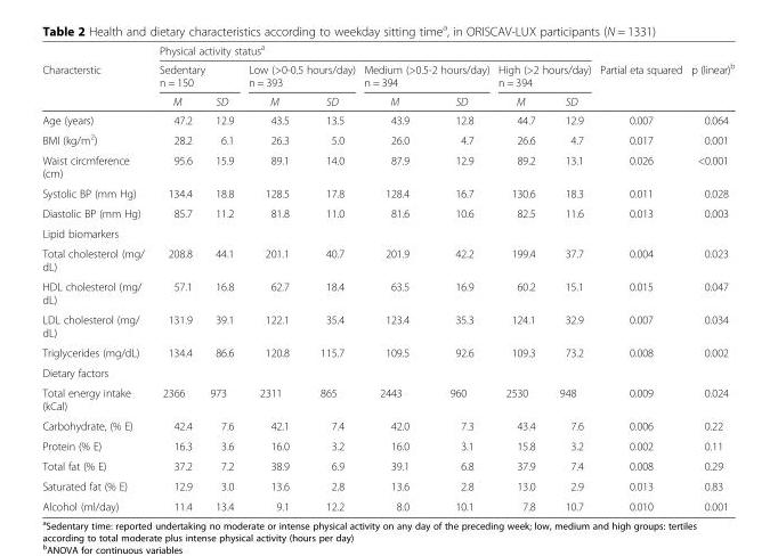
<table><thead><tr><td rowspan="3">Characterstic</td><td colspan="8">Physical activity status<sup>a</sup></td><td rowspan="3">Partial eta squared</td><td rowspan="3">p (linear)<sup>b</sup></td></tr><tr><td colspan="2">Sedentary n = 150</td><td colspan="2">Low (&gt;0-0.5 hours/day) n = 393</td><td colspan="2">Medium (&gt;0.5-2 hours/day) n = 394</td><td colspan="2">High (&gt;2 hours/day) n = 394</td></tr><tr><td>M</td><td>SD</td><td>M</td><td>SD</td><td>M</td><td>SD</td><td>M</td><td>SD</td></tr></thead><tbody><tr><td>Age (years)</td><td>47.2</td><td>12.9</td><td>43.5</td><td>13.5</td><td>43.9</td><td>12.8</td><td>44.7</td><td>12.9</td><td>0.007</td><td>0.064</td></tr><tr><td>BMI (kg/m<sup>2</sup>)</td><td>28.2</td><td>6.1</td><td>26.3</td><td>5.0</td><td>26.0</td><td>4.7</td><td>26.6</td><td>4.7</td><td>0.017</td><td>0.001</td></tr><tr><td>Waist circmference (cm)</td><td>95.6</td><td>15.9</td><td>89.1</td><td>14.0</td><td>87.9</td><td>12.9</td><td>89.2</td><td>13.1</td><td>0.026</td><td>&lt;0.001</td></tr><tr><td>Systolic BP (mm Hg)</td><td>134.4</td><td>18.8</td><td>128.5</td><td>17.8</td><td>128.4</td><td>16.7</td><td>130.6</td><td>18.3</td><td>0.011</td><td>0.028</td></tr><tr><td>Diastolic BP (mm Hg)</td><td>85.7</td><td>11.2</td><td>81.8</td><td>11.0</td><td>81.6</td><td>10.6</td><td>82.5</td><td>11.6</td><td>0.013</td><td>0.003</td></tr><tr><td colspan="11">Lipid biomarkers</td></tr><tr><td>Total cholesterol (mg/ dL)</td><td>208.8</td><td>44.1</td><td>201.1</td><td>40.7</td><td>201.9</td><td>42.2</td><td>199.4</td><td>37.7</td><td>0.004</td><td>0.023</td></tr><tr><td>HDL cholesterol (mg/ dL)</td><td>57.1</td><td>16.8</td><td>62.7</td><td>18.4</td><td>63.5</td><td>16.9</td><td>60.2</td><td>15.1</td><td>0.015</td><td>0.047</td></tr><tr><td>LDL cholesterol (mg/ dL)</td><td>131.9</td><td>39.1</td><td>122.1</td><td>35.4</td><td>123.4</td><td>35.3</td><td>124.1</td><td>32.9</td><td>0.007</td><td>0.034</td></tr><tr><td>Triglycerides (mg/dL)</td><td>134.4</td><td>86.6</td><td>120.8</td><td>115.7</td><td>109.5</td><td>92.6</td><td>109.3</td><td>73.2</td><td>0.008</td><td>0.002</td></tr><tr><td colspan="11">Dietary factors</td></tr><tr><td>Total energy intake (kCal)</td><td>2366</td><td>973</td><td>2311</td><td>865</td><td>2443</td><td>960</td><td>2530</td><td>948</td><td>0.009</td><td>0.024</td></tr><tr><td>Carbohydrate, (% E)</td><td>42.4</td><td>7.6</td><td>42.1</td><td>7.4</td><td>42.0</td><td>7.3</td><td>43.4</td><td>7.6</td><td>0.006</td><td>0.22</td></tr><tr><td>Protein (% E)</td><td>16.3</td><td>3.6</td><td>16.0</td><td>3.2</td><td>16.0</td><td>3.1</td><td>15.8</td><td>3.2</td><td>0.002</td><td>0.11</td></tr><tr><td>Total fat (% E)</td><td>37.2</td><td>7.2</td><td>38.9</td><td>6.9</td><td>39.1</td><td>6.8</td><td>37.9</td><td>7.4</td><td>0.008</td><td>0.29</td></tr><tr><td>Saturated fat (% E)</td><td>12.9</td><td>3.0</td><td>13.6</td><td>2.8</td><td>13.6</td><td>2.8</td><td>13.0</td><td>2.9</td><td>0.013</td><td>0.83</td></tr><tr><td>Alcohol (ml/day)</td><td>11.4</td><td>13.4</td><td>9.1</td><td>12.2</td><td>8.0</td><td>10.1</td><td>7.8</td><td>10.7</td><td>0.010</td><td>0.001</td></tr></tbody></table>